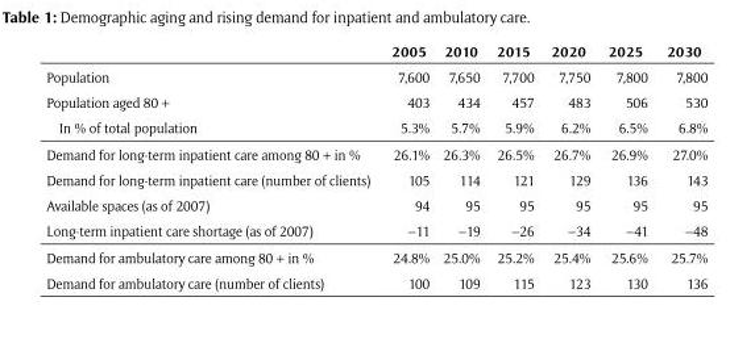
<table><thead><tr><td></td><td>2005</td><td>2010</td><td>2015</td><td>2020</td><td>2025</td><td>2030</td></tr></thead><tbody><tr><td>Population</td><td>7,600</td><td>7,650</td><td>7,700</td><td>7,750</td><td>7,800</td><td>7,800</td></tr><tr><td>Population aged 80 +</td><td>403</td><td>434</td><td>457</td><td>483</td><td>506</td><td>530</td></tr><tr><td>In % of total population</td><td>5.3%</td><td>5.7%</td><td>5.9%</td><td>6.2%</td><td>6.5%</td><td>6.8%</td></tr><tr><td>Demand for long-term inpatient care among 80 + in %</td><td>26.1%</td><td>26.3%</td><td>26.5%</td><td>26.7%</td><td>26.9%</td><td>27.0%</td></tr><tr><td>Demand for long-term inpatient care (number of clients)</td><td>105</td><td>114</td><td>121</td><td>129</td><td>136</td><td>143</td></tr><tr><td>Available spaces (as of 2007)</td><td>94</td><td>95</td><td>95</td><td>95</td><td>95</td><td>95</td></tr><tr><td>Long-term inpatient care shortage (as of 2007)</td><td>–11</td><td>–19</td><td>–26</td><td>–34</td><td>–41</td><td>–48</td></tr><tr><td>Demand for ambulatory care among 80 + in %</td><td>24.8%</td><td>25.0%</td><td>25.2%</td><td>25.4%</td><td>25.6%</td><td>25.7%</td></tr><tr><td>Demand for ambulatory care (number of clients)</td><td>100</td><td>109</td><td>115</td><td>123</td><td>130</td><td>136</td></tr></tbody></table>